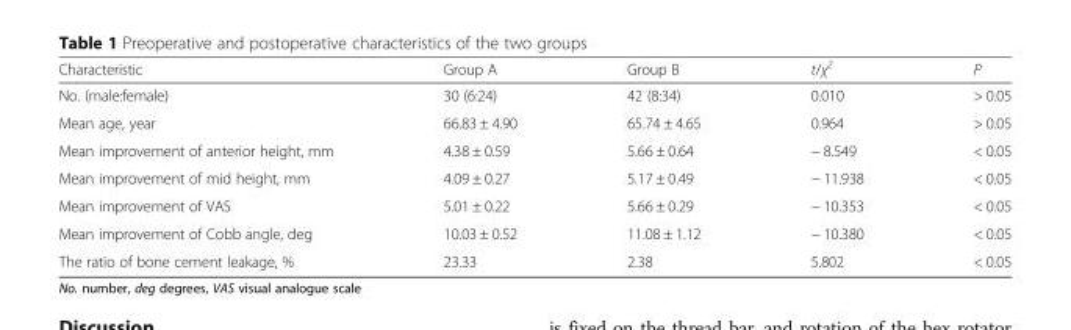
<table><thead><tr><td>Characteristic</td><td>Group A</td><td>Group B</td><td>t/χ<sup>2</sup></td><td>P</td></tr></thead><tbody><tr><td>No. (male:female)</td><td>30 (6:24)</td><td>42 (8:34)</td><td>0.010</td><td>&gt; 0.05</td></tr><tr><td>Mean age, year</td><td>66.83 ± 4.90</td><td>65.74 ± 4.65</td><td>0.964</td><td>&gt; 0.05</td></tr><tr><td>Mean improvement of anterior height, mm</td><td>4.38 ± 0.59</td><td>5.66 ± 0.64</td><td>− 8.549</td><td>&lt; 0.05</td></tr><tr><td>Mean improvement of mid height, mm</td><td>4.09 ± 0.27</td><td>5.17 ± 0.49</td><td>− 11.938</td><td>&lt; 0.05</td></tr><tr><td>Mean improvement of VAS</td><td>5.01 ± 0.22</td><td>5.66 ± 0.29</td><td>− 10.353</td><td>&lt; 0.05</td></tr><tr><td>Mean improvement of Cobb angle, deg</td><td>10.03 ± 0.52</td><td>11.08 ± 1.12</td><td>− 10.380</td><td>&lt; 0.05</td></tr><tr><td>The ratio of bone cement leakage, %</td><td>23.33</td><td>2.38</td><td>5.802</td><td>&lt; 0.05</td></tr></tbody></table>